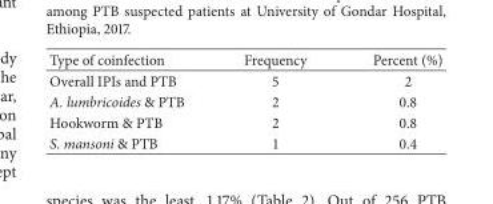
<table><thead><tr><td>Type of coinfection</td><td>Frequency</td><td>Percent (%)</td></tr></thead><tbody><tr><td>Overall IPIs and PTB</td><td>5</td><td>2</td></tr><tr><td>A. lumbricoides &amp; PTB</td><td>2</td><td>0.8</td></tr><tr><td>Hookworm &amp; PTB</td><td>2</td><td>0.8</td></tr><tr><td>S. mansoni &amp; PTB</td><td>1</td><td>0.4</td></tr></tbody></table>